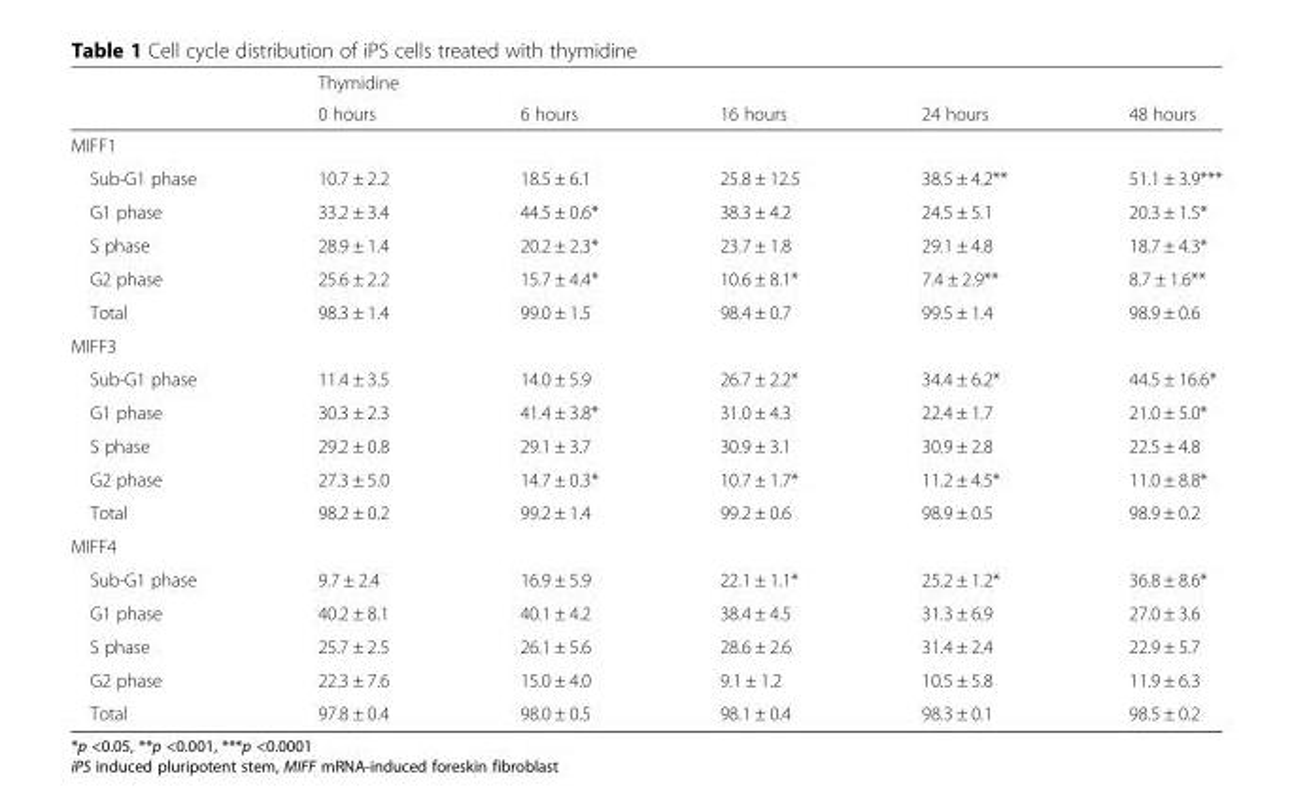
<table><thead><tr><td rowspan="2"></td><td rowspan="2">Thymidine 0 hours</td><td rowspan="2">6 hours</td><td rowspan="2">16 hours</td><td rowspan="2">24 hours</td><td rowspan="2">48 hours</td></tr><tr></tr></thead><tbody><tr><td colspan="6">MIFF1</td></tr><tr><td>Sub-G1 phase</td><td>10.7 ± 2.2</td><td>18.5 ± 6.1</td><td>25.8 ± 12.5</td><td>38.5 ± 4.2**</td><td>51.1 ± 3.9***</td></tr><tr><td>G1 phase</td><td>33.2 ± 3.4</td><td>44.5 ± 0.6*</td><td>38.3 ± 4.2</td><td>24.5 ± 5.1</td><td>20.3 ± 1.5*</td></tr><tr><td>S phase</td><td>28.9 ± 1.4</td><td>20.2 ± 2.3*</td><td>23.7 ± 1.8</td><td>29.1 ± 4.8</td><td>18.7 ± 4.3*</td></tr><tr><td>G2 phase</td><td>25.6 ± 2.2</td><td>15.7 ± 4.4*</td><td>10.6 ± 8.1*</td><td>7.4 ± 2.9**</td><td>8.7 ± 1.6**</td></tr><tr><td>Total</td><td>98.3 ± 1.4</td><td>99.0 ± 1.5</td><td>98.4 ± 0.7</td><td>99.5 ± 1.4</td><td>98.9 ± 0.6</td></tr><tr><td colspan="6">MIFF3</td></tr><tr><td>Sub-G1 phase</td><td>11.4 ± 3.5</td><td>14.0 ± 5.9</td><td>26.7 ± 2.2*</td><td>34.4 ± 6.2*</td><td>44.5 ± 16.6*</td></tr><tr><td>G1 phase</td><td>30.3 ± 2.3</td><td>41.4 ± 3.8*</td><td>31.0 ± 4.3</td><td>22.4 ± 1.7</td><td>21.0 ± 5.0*</td></tr><tr><td>S phase</td><td>29.2 ± 0.8</td><td>29.1 ± 3.7</td><td>30.9 ± 3.1</td><td>30.9 ± 2.8</td><td>22.5 ± 4.8</td></tr><tr><td>G2 phase</td><td>27.3 ± 5.0</td><td>14.7 ± 0.3*</td><td>10.7 ± 1.7*</td><td>11.2 ± 4.5*</td><td>11.0 ± 8.8*</td></tr><tr><td>Total</td><td>98.2 ± 0.2</td><td>99.2 ± 1.4</td><td>99.2 ± 0.6</td><td>98.9 ± 0.5</td><td>98.9 ± 0.2</td></tr><tr><td colspan="6">MIFF4</td></tr><tr><td>Sub-G1 phase</td><td>9.7 ± 2.4</td><td>16.9 ± 5.9</td><td>22.1 ± 1.1*</td><td>25.2 ± 1.2*</td><td>36.8 ± 8.6*</td></tr><tr><td>G1 phase</td><td>40.2 ± 8.1</td><td>40.1 ± 4.2</td><td>38.4 ± 4.5</td><td>31.3 ± 6.9</td><td>27.0 ± 3.6</td></tr><tr><td>S phase</td><td>25.7 ± 2.5</td><td>26.1 ± 5.6</td><td>28.6 ± 2.6</td><td>31.4 ± 2.4</td><td>22.9 ± 5.7</td></tr><tr><td>G2 phase</td><td>22.3 ± 7.6</td><td>15.0 ± 4.0</td><td>9.1 ± 1.2</td><td>10.5 ± 5.8</td><td>11.9 ± 6.3</td></tr><tr><td>Total</td><td>97.8 ± 0.4</td><td>98.0 ± 0.5</td><td>98.1 ± 0.4</td><td>98.3 ± 0.1</td><td>98.5 ± 0.2</td></tr></tbody></table>